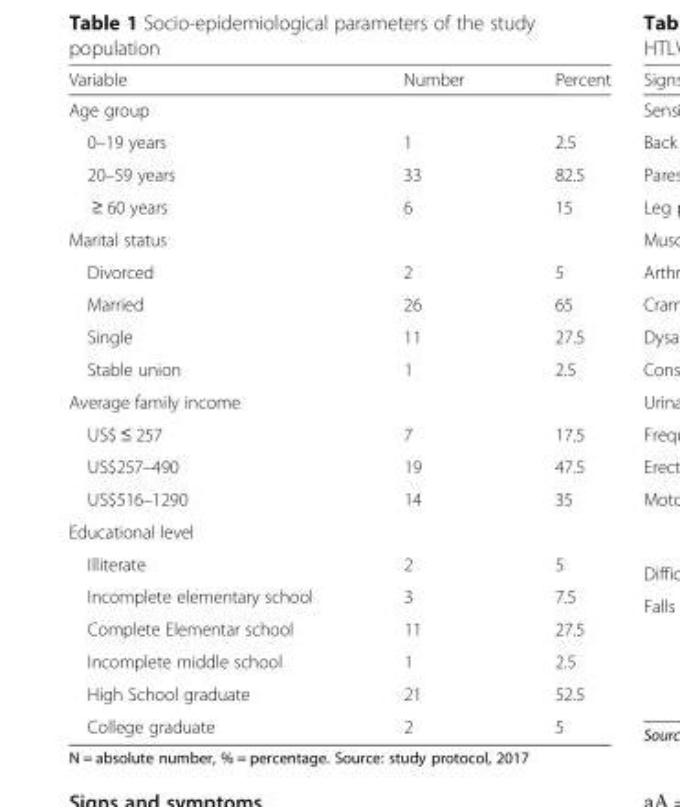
<table><thead><tr><td>Variable</td><td>Number</td><td>Percent</td></tr></thead><tbody><tr><td colspan="3">Age group</td></tr><tr><td>0–19 years</td><td>1</td><td>2.5</td></tr><tr><td>20–59 years</td><td>33</td><td>82.5</td></tr><tr><td>≥ 60 years</td><td>6</td><td>15</td></tr><tr><td colspan="3">Marital status</td></tr><tr><td>Divorced</td><td>2</td><td>5</td></tr><tr><td>Married</td><td>26</td><td>65</td></tr><tr><td>Single</td><td>11</td><td>27.5</td></tr><tr><td>Stable union</td><td>1</td><td>2.5</td></tr><tr><td colspan="3">Average family income</td></tr><tr><td>US$ ≤ 257</td><td>7</td><td>17.5</td></tr><tr><td>US$257–490</td><td>19</td><td>47.5</td></tr><tr><td>US$516–1290</td><td>14</td><td>35</td></tr><tr><td colspan="3">Educational level</td></tr><tr><td>Illiterate</td><td>2</td><td>5</td></tr><tr><td>Incomplete elementary school</td><td>3</td><td>7.5</td></tr><tr><td>Complete Elementar school</td><td>11</td><td>27.5</td></tr><tr><td>Incomplete middle school</td><td>1</td><td>2.5</td></tr><tr><td>High School graduate</td><td>21</td><td>52.5</td></tr><tr><td>College graduate</td><td>2</td><td>5</td></tr></tbody></table>